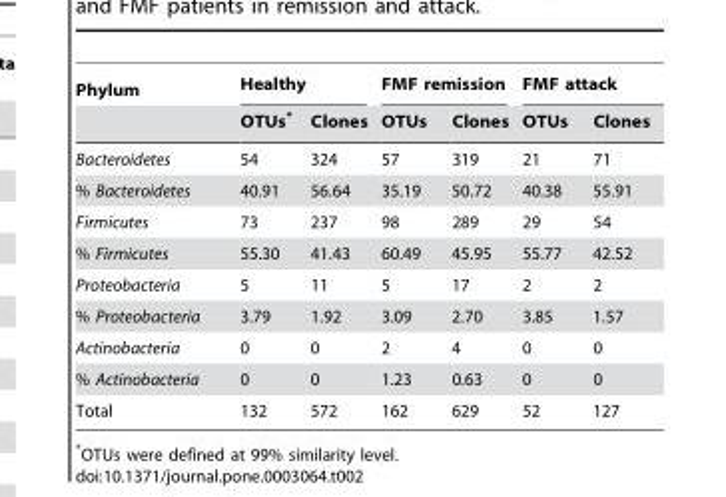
<table><thead><tr><td rowspan="2">Phylum</td><td colspan="2">Healthy</td><td colspan="2">FMF remission</td><td colspan="2">FMF attack</td></tr><tr><td>OTUs*</td><td>Clones</td><td>OTUs</td><td>Clones</td><td>OTUs</td><td>Clones</td></tr></thead><tbody><tr><td>Bacteroidetes</td><td>54</td><td>324</td><td>57</td><td>319</td><td>21</td><td>71</td></tr><tr><td>% Bacteroidetes</td><td>40.91</td><td>56.64</td><td>35.19</td><td>50.72</td><td>40.38</td><td>55.91</td></tr><tr><td>Firmicutes</td><td>73</td><td>237</td><td>98</td><td>289</td><td>29</td><td>54</td></tr><tr><td>% Firmicutes</td><td>55.30</td><td>41.43</td><td>60.49</td><td>45.95</td><td>55.77</td><td>42.52</td></tr><tr><td>Proteobacteria</td><td>5</td><td>11</td><td>5</td><td>17</td><td>2</td><td>2</td></tr><tr><td>% Proteobacteria</td><td>3.79</td><td>1.92</td><td>3.09</td><td>2.70</td><td>3.85</td><td>1.57</td></tr><tr><td>Actinobacteria</td><td>0</td><td>0</td><td>2</td><td>4</td><td>0</td><td>0</td></tr><tr><td>% Actinobacteria</td><td>0</td><td>0</td><td>1.23</td><td>0.63</td><td>0</td><td>0</td></tr><tr><td>Total</td><td>132</td><td>572</td><td>162</td><td>629</td><td>52</td><td>127</td></tr></tbody></table>